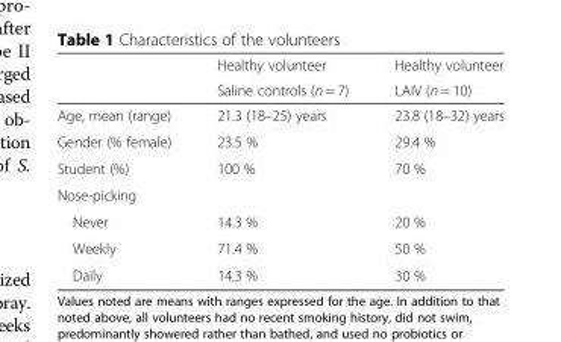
<table><thead><tr><td rowspan="2"></td><td rowspan="2">Healthy volunteer Saline controls (n = 7)</td><td rowspan="2">Healthy volunteer LAIV (n = 10)</td></tr><tr></tr></thead><tbody><tr><td>Age, mean (range)</td><td>21.3 (18–25) years</td><td>23.8 (18–32) years</td></tr><tr><td>Gender (% female)</td><td>23.5 %</td><td>29.4 %</td></tr><tr><td>Student (%)</td><td>100 %</td><td>70 %</td></tr><tr><td colspan="3">Nose-picking</td></tr><tr><td>Never</td><td>14.3 %</td><td>20 %</td></tr><tr><td>Weekly</td><td>71.4 %</td><td>50 %</td></tr><tr><td>Daily</td><td>14.3 %</td><td>30 %</td></tr></tbody></table>